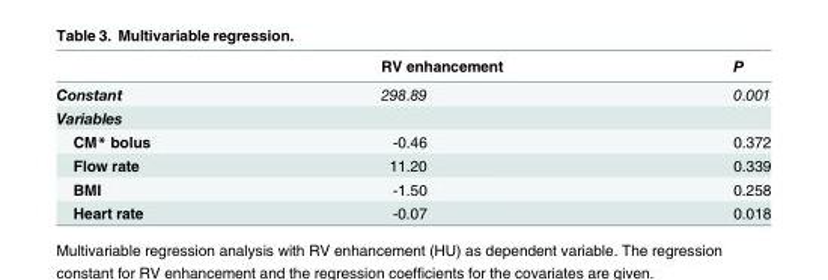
<table><thead><tr><td></td><td>RV enhancement</td><td>P</td></tr></thead><tbody><tr><td>Constant</td><td>298.89</td><td>0.001</td></tr><tr><td colspan="3">Variables</td></tr><tr><td>CM* bolus</td><td>-0.46</td><td>0.372</td></tr><tr><td>Flow rate</td><td>11.20</td><td>0.339</td></tr><tr><td>BMI</td><td>-1.50</td><td>0.258</td></tr><tr><td>Heart rate</td><td>-0.07</td><td>0.018</td></tr></tbody></table>